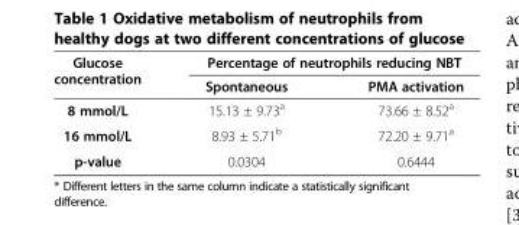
<table><thead><tr><td rowspan="2">Glucose concentration</td><td colspan="2">Percentage of neutrophils reducing NBT</td></tr><tr><td>Spontaneous</td><td>PMA activation</td></tr></thead><tbody><tr><td>8 mmol/L</td><td>15.13 ± 9.73<sup>a</sup></td><td>73.66 ± 8.52<sup>a</sup></td></tr><tr><td>16 mmol/L</td><td>8.93 ± 5.71<sup>b</sup></td><td>72.20 ± 9.71<sup>a</sup></td></tr><tr><td>p-value</td><td>0.0304</td><td>0.6444</td></tr></tbody></table>